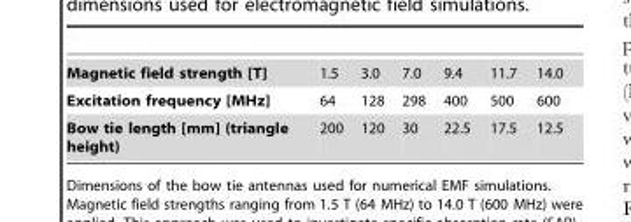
<table><tbody><tr><td>Magnetic field strength [T]</td><td>1.5</td><td>3.0</td><td>7.0</td><td>9.4</td><td>11.7</td><td>14.0</td></tr><tr><td>Excitation frequency [MHz]</td><td>64</td><td>128</td><td>298</td><td>400</td><td>500</td><td>600</td></tr><tr><td>Bow tie length [mm] (triangle height)</td><td>200</td><td>120</td><td>30</td><td>22.5</td><td>17.5</td><td>12.5</td></tr></tbody></table>